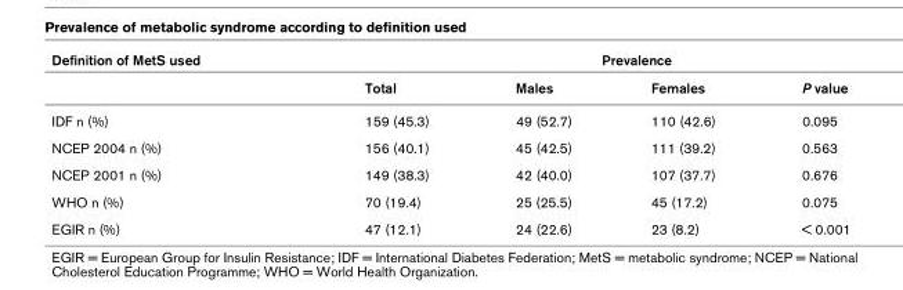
<table><thead><tr><td rowspan="2">Definition of MetS used</td><td colspan="4">Prevalence</td></tr><tr><td>Total</td><td>Males</td><td>Females</td><td>P value</td></tr></thead><tbody><tr><td>IDF n (%)</td><td>159 (45.3)</td><td>49 (52.7)</td><td>110 (42.6)</td><td>0.095</td></tr><tr><td>NCEP 2004 n (%)</td><td>156 (40.1)</td><td>45 (42.5)</td><td>111 (39.2)</td><td>0.563</td></tr><tr><td>NCEP 2001 n (%)</td><td>149 (38.3)</td><td>42 (40.0)</td><td>107 (37.7)</td><td>0.676</td></tr><tr><td>WHO n (%)</td><td>70 (19.4)</td><td>25 (25.5)</td><td>45 (17.2)</td><td>0.075</td></tr><tr><td>EGIR n (%)</td><td>47 (12.1)</td><td>24 (22.6)</td><td>23 (8.2)</td><td>&lt; 0.001</td></tr></tbody></table>